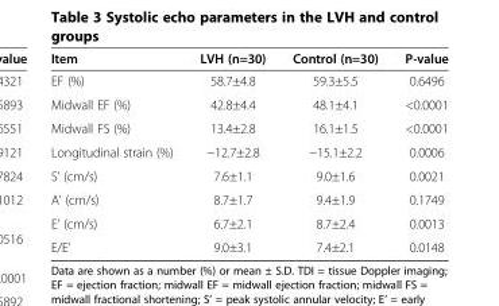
<table><thead><tr><td>Item</td><td>LVH (n=30)</td><td>Control (n=30)</td><td>P-value</td></tr></thead><tbody><tr><td>EF (%)</td><td>58.7±4.8</td><td>59.3±5.5</td><td>0.6496</td></tr><tr><td>Midwall EF (%)</td><td>42.8±4.4</td><td>48.1±4.1</td><td>&lt;0.0001</td></tr><tr><td>Midwall FS (%)</td><td>13.4±2.8</td><td>16.1±1.5</td><td>&lt;0.0001</td></tr><tr><td>Longitudinal strain (%)</td><td>−12.7±2.8</td><td>−15.1±2.2</td><td>0.0006</td></tr><tr><td>S’ (cm/s)</td><td>7.6±1.1</td><td>9.0±1.6</td><td>0.0021</td></tr><tr><td>A’ (cm/s)</td><td>8.7±1.7</td><td>9.4±1.9</td><td>0.1749</td></tr><tr><td>E’ (cm/s)</td><td>6.7±2.1</td><td>8.7±2.4</td><td>0.0013</td></tr><tr><td>E/E’</td><td>9.0±3.1</td><td>7.4±2.1</td><td>0.0148</td></tr></tbody></table>